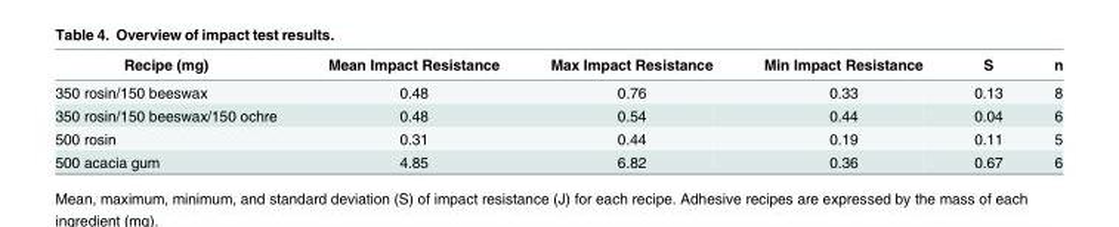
<table><thead><tr><td>Recipe (mg)</td><td>Mean Impact Resistance</td><td>Max Impact Resistance</td><td>Min Impact Resistance</td><td>S</td><td>n</td></tr></thead><tbody><tr><td>350 rosin/150 beeswax</td><td>0.48</td><td>0.76</td><td>0.33</td><td>0.13</td><td>8</td></tr><tr><td>350 rosin/150 beeswax/150 ochre</td><td>0.48</td><td>0.54</td><td>0.44</td><td>0.04</td><td>6</td></tr><tr><td>500 rosin</td><td>0.31</td><td>0.44</td><td>0.19</td><td>0.11</td><td>5</td></tr><tr><td>500 acacia gum</td><td>4.85</td><td>6.82</td><td>0.36</td><td>0.67</td><td>6</td></tr></tbody></table>